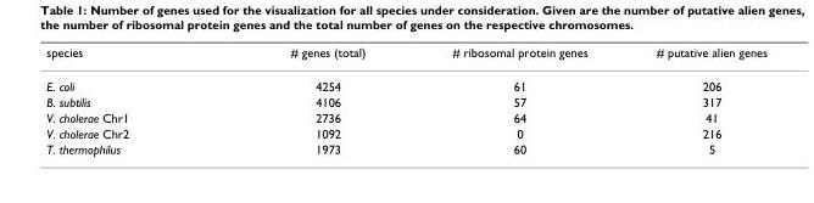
<table><thead><tr><td>species</td><td># genes (total)</td><td># ribosomal protein genes</td><td># putative alien genes</td></tr></thead><tbody><tr><td>E. coli</td><td>4254</td><td>61</td><td>206</td></tr><tr><td>B. subtilis</td><td>4106</td><td>57</td><td>317</td></tr><tr><td>V. cholerae Chr1</td><td>2736</td><td>64</td><td>41</td></tr><tr><td>V. cholerae Chr2</td><td>1092</td><td>0</td><td>216</td></tr><tr><td>T. thermophilus</td><td>1973</td><td>60</td><td>5</td></tr></tbody></table>